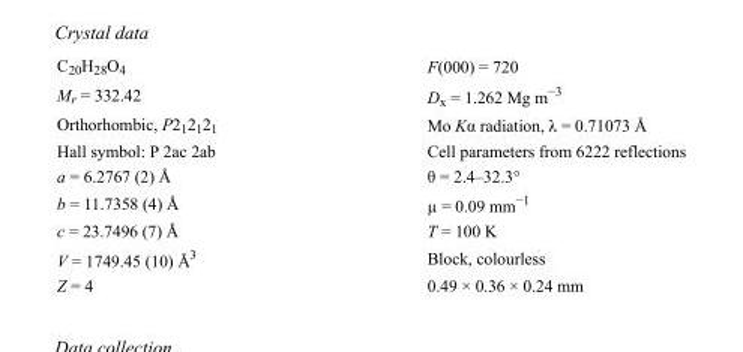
<table><tbody><tr><td>C<sub>20</sub>H<sub>28</sub>O<sub>4</sub></td><td>F(000) = 720</td></tr><tr><td>M<sub>r</sub> = 332.42</td><td>D<sub>x</sub> = 1.262 Mg m<sup>−3</sup></td></tr><tr><td>Orthorhombic, P2<sub>1</sub>2<sub>1</sub>2<sub>1</sub></td><td>Mo Kα radiation, λ = 0.71073 Å</td></tr><tr><td>Hall symbol: P 2ac 2ab</td><td>Cell parameters from 6222 reflections</td></tr><tr><td>a = 6.2767 (2) Å</td><td>θ = 2.4–32.3°</td></tr><tr><td>b = 11.7358 (4) Å</td><td>µ = 0.09 mm<sup>−1</sup></td></tr><tr><td>c = 23.7496 (7) Å</td><td>T = 100 K</td></tr><tr><td>V = 1749.45 (10) Å<sup>3</sup></td><td>Block, colourless</td></tr><tr><td>Z = 4</td><td>0.49 × 0.36 × 0.24 mm</td></tr></tbody></table>